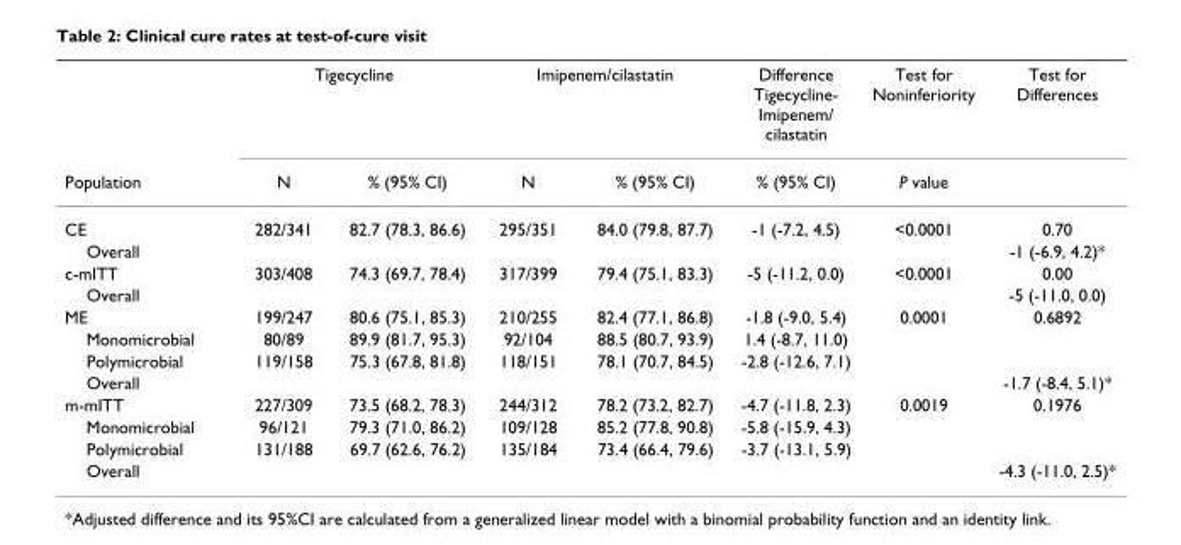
<table><thead><tr><td rowspan="2">Population</td><td colspan="2">Tigecycline</td><td colspan="2">Imipenem/cilastatin</td><td rowspan="2">Difference Tigecycline- Imipenem/ cilastatin % (95% CI)</td><td rowspan="2">Test for Noninferiority P value</td><td rowspan="2">Test for Differences</td></tr><tr><td>N</td><td>% (95% CI)</td><td>N</td><td>% (95% CI)</td></tr></thead><tbody><tr><td>CE</td><td>282/341</td><td>82.7 (78.3, 86.6)</td><td>295/351</td><td>84.0 (79.8, 87.7)</td><td>-1 (-7.2, 4.5)</td><td>&lt;0.0001</td><td>0.70</td></tr><tr><td>Overall</td><td></td><td></td><td></td><td></td><td></td><td></td><td>-1 (-6.9, 4.2)*</td></tr><tr><td>c-mITT</td><td>303/408</td><td>74.3 (69.7, 78.4)</td><td>317/399</td><td>79.4 (75.1, 83.3)</td><td>-5 (-11.2, 0.0)</td><td>&lt;0.0001</td><td>0.00</td></tr><tr><td>Overall</td><td></td><td></td><td></td><td></td><td></td><td></td><td>-5 (-11.0, 0.0)</td></tr><tr><td>ME</td><td>199/247</td><td>80.6 (75.1, 85.3)</td><td>210/255</td><td>82.4 (77.1, 86.8)</td><td>-1.8 (-9.0, 5.4)</td><td>0.0001</td><td>0.6892</td></tr><tr><td>Monomicrobial</td><td>80/89</td><td>89.9 (81.7, 95.3)</td><td>92/104</td><td>88.5 (80.7, 93.9)</td><td>1.4 (-8.7, 11.0)</td><td></td><td></td></tr><tr><td>Polymicrobial</td><td>119/158</td><td>75.3 (67.8, 81.8)</td><td>118/151</td><td>78.1 (70.7, 84.5)</td><td>-2.8 (-12.6, 7.1)</td><td></td><td></td></tr><tr><td>Overall</td><td></td><td></td><td></td><td></td><td></td><td></td><td>-1.7 (-8.4, 5.1)*</td></tr><tr><td>m-mITT</td><td>227/309</td><td>73.5 (68.2, 78.3)</td><td>244/312</td><td>78.2 (73.2, 82.7)</td><td>-4.7 (-11.8, 2.3)</td><td>0.0019</td><td>0.1976</td></tr><tr><td>Monomicrobial</td><td>96/121</td><td>79.3 (71.0, 86.2)</td><td>109/128</td><td>85.2 (77.8, 90.8)</td><td>-5.8 (-15.9, 4.3)</td><td></td><td></td></tr><tr><td>Polymicrobial</td><td>131/188</td><td>69.7 (62.6, 76.2)</td><td>135/184</td><td>73.4 (66.4, 79.6)</td><td>-3.7 (-13.1, 5.9)</td><td></td><td></td></tr><tr><td>Overall</td><td></td><td></td><td></td><td></td><td></td><td></td><td>-4.3 (-11.0, 2.5)*</td></tr></tbody></table>